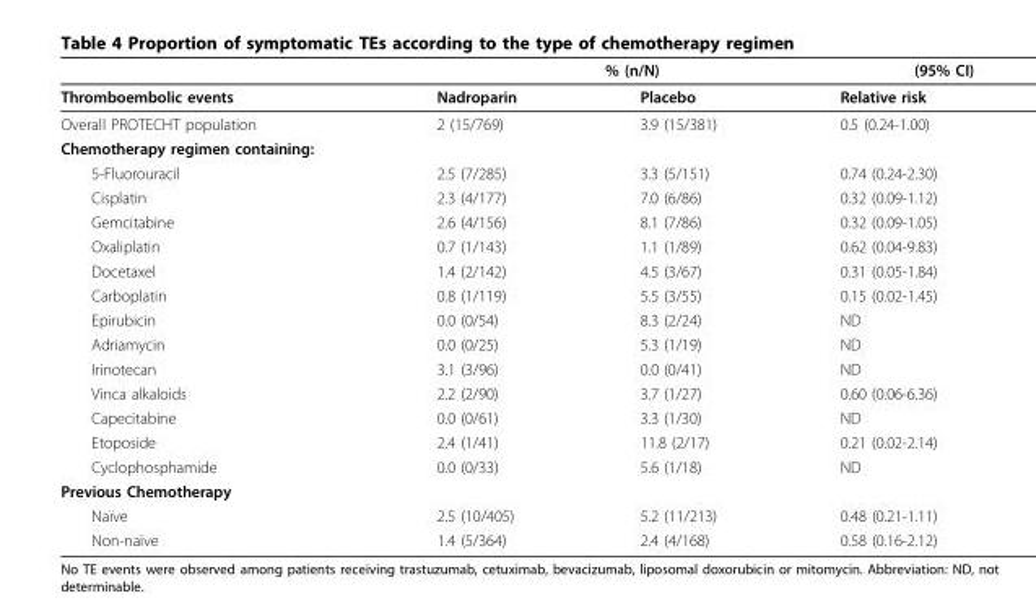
<table><thead><tr><td rowspan="2">Thromboembolic events</td><td colspan="2">% (n/N)</td><td rowspan="2">(95% CI) Relative risk</td></tr><tr><td>Nadroparin</td><td>Placebo</td></tr></thead><tbody><tr><td>Overall PROTECHT population</td><td>2 (15/769)</td><td>3.9 (15/381)</td><td>0.5 (0.24-1.00)</td></tr><tr><td colspan="4">Chemotherapy regimen containing:</td></tr><tr><td>5-Fluorouracil</td><td>2.5 (7/285)</td><td>3.3 (5/151)</td><td>0.74 (0.24-2.30)</td></tr><tr><td>Cisplatin</td><td>2.3 (4/177)</td><td>7.0 (6/86)</td><td>0.32 (0.09-1.12)</td></tr><tr><td>Gemcitabine</td><td>2.6 (4/156)</td><td>8.1 (7/86)</td><td>0.32 (0.09-1.05)</td></tr><tr><td>Oxaliplatin</td><td>0.7 (1/143)</td><td>1.1 (1/89)</td><td>0.62 (0.04-9.83)</td></tr><tr><td>Docetaxel</td><td>1.4 (2/142)</td><td>4.5 (3/67)</td><td>0.31 (0.05-1.84)</td></tr><tr><td>Carboplatin</td><td>0.8 (1/119)</td><td>5.5 (3/55)</td><td>0.15 (0.02-1.45)</td></tr><tr><td>Epirubicin</td><td>0.0 (0/54)</td><td>8.3 (2/24)</td><td>ND</td></tr><tr><td>Adriamycin</td><td>0.0 (0/25)</td><td>5.3 (1/19)</td><td>ND</td></tr><tr><td>Irinotecan</td><td>3.1 (3/96)</td><td>0.0 (0/41)</td><td>ND</td></tr><tr><td>Vinca alkaloids</td><td>2.2 (2/90)</td><td>3.7 (1/27)</td><td>0.60 (0.06-6.36)</td></tr><tr><td>Capecitabine</td><td>0.0 (0/61)</td><td>3.3 (1/30)</td><td>ND</td></tr><tr><td>Etoposide</td><td>2.4 (1/41)</td><td>11.8 (2/17)</td><td>0.21 (0.02-2.14)</td></tr><tr><td>Cyclophosphamide</td><td>0.0 (0/33)</td><td>5.6 (1/18)</td><td>ND</td></tr><tr><td colspan="4">Previous Chemotherapy</td></tr><tr><td>Naïve</td><td>2.5 (10/405)</td><td>5.2 (11/213)</td><td>0.48 (0.21-1.11)</td></tr><tr><td>Non-naïve</td><td>1.4 (5/364)</td><td>2.4 (4/168)</td><td>0.58 (0.16-2.12)</td></tr></tbody></table>